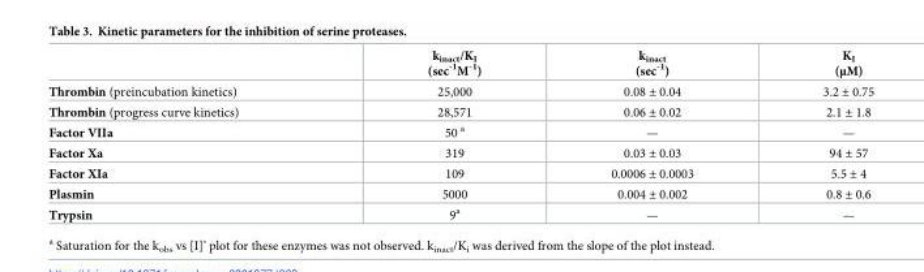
<table><thead><tr><td></td><td>k<sub>inact</sub>/K<sub>I</sub> (sec<sup>-1</sup>M<sup>-1</sup>)</td><td>k<sub>inact</sub> (sec<sup>-1</sup>)</td><td>K<sub>I</sub> (μM)</td></tr></thead><tbody><tr><td>Thrombin (preincubation kinetics)</td><td>25,000</td><td>0.08 ± 0.04</td><td>3.2 ± 0.75</td></tr><tr><td>Thrombin (progress curve kinetics)</td><td>28,571</td><td>0.06 ± 0.02</td><td>2.1 ± 1.8</td></tr><tr><td>Factor VIIa</td><td>50 <sup>a</sup></td><td>—</td><td>—</td></tr><tr><td>Factor Xa</td><td>319</td><td>0.03 ± 0.03</td><td>94 ± 57</td></tr><tr><td>Factor XIa</td><td>109</td><td>0.0006 ± 0.0003</td><td>5.5 ± 4</td></tr><tr><td>Plasmin</td><td>5000</td><td>0.004 ± 0.002</td><td>0.8 ± 0.6</td></tr><tr><td>Trypsin</td><td>9<sup>a</sup></td><td>—</td><td>—</td></tr></tbody></table>